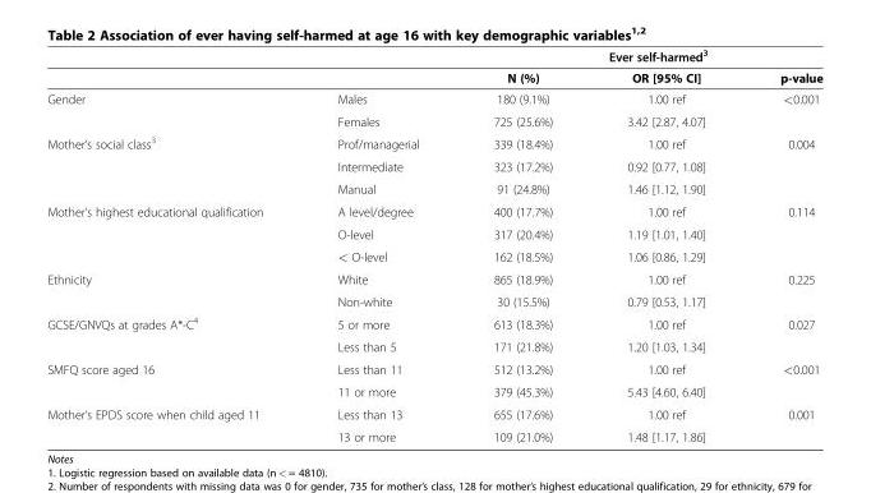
<table><thead><tr><td rowspan="2"></td><td rowspan="2"></td><td colspan="3">Ever self-harmed<sup>3</sup></td></tr><tr><td>N (%)</td><td>OR [95% CI]</td><td>p-value</td></tr></thead><tbody><tr><td rowspan="2">Gender</td><td>Males</td><td>180 (9.1%)</td><td>1.00 ref</td><td>&lt;0.001</td></tr><tr><td>Females</td><td>725 (25.6%)</td><td>3.42 [2.87, 4.07]</td><td></td></tr><tr><td rowspan="3">Mother’s social class<sup>3</sup></td><td>Prof/managerial</td><td>339 (18.4%)</td><td>1.00 ref</td><td>0.004</td></tr><tr><td>Intermediate</td><td>323 (17.2%)</td><td>0.92 [0.77, 1.08]</td><td></td></tr><tr><td>Manual</td><td>91 (24.8%)</td><td>1.46 [1.12, 1.90]</td><td></td></tr><tr><td rowspan="3">Mother’s highest educational qualification</td><td>A level/degree</td><td>400 (17.7%)</td><td>1.00 ref</td><td>0.114</td></tr><tr><td>O-level</td><td>317 (20.4%)</td><td>1.19 [1.01, 1.40]</td><td></td></tr><tr><td>&lt; O-level</td><td>162 (18.5%)</td><td>1.06 [0.86, 1.29]</td><td></td></tr><tr><td rowspan="2">Ethnicity</td><td>White</td><td>865 (18.9%)</td><td>1.00 ref</td><td>0.225</td></tr><tr><td>Non-white</td><td>30 (15.5%)</td><td>0.79 [0.53, 1.17]</td><td></td></tr><tr><td rowspan="2">GCSE/GNVQs at grades A*-C<sup>4</sup></td><td>5 or more</td><td>613 (18.3%)</td><td>1.00 ref</td><td>0.027</td></tr><tr><td>Less than 5</td><td>171 (21.8%)</td><td>1.20 [1.03, 1.34]</td><td></td></tr><tr><td rowspan="2">SMFQ score aged 16</td><td>Less than 11</td><td>512 (13.2%)</td><td>1.00 ref</td><td>&lt;0.001</td></tr><tr><td>11 or more</td><td>379 (45.3%)</td><td>5.43 [4.60, 6.40]</td><td></td></tr><tr><td rowspan="2">Mother’s EPDS score when child aged 11</td><td>Less than 13</td><td>655 (17.6%)</td><td>1.00 ref</td><td>0.001</td></tr><tr><td>13 or more</td><td>109 (21.0%)</td><td>1.48 [1.17, 1.86]</td><td></td></tr></tbody></table>